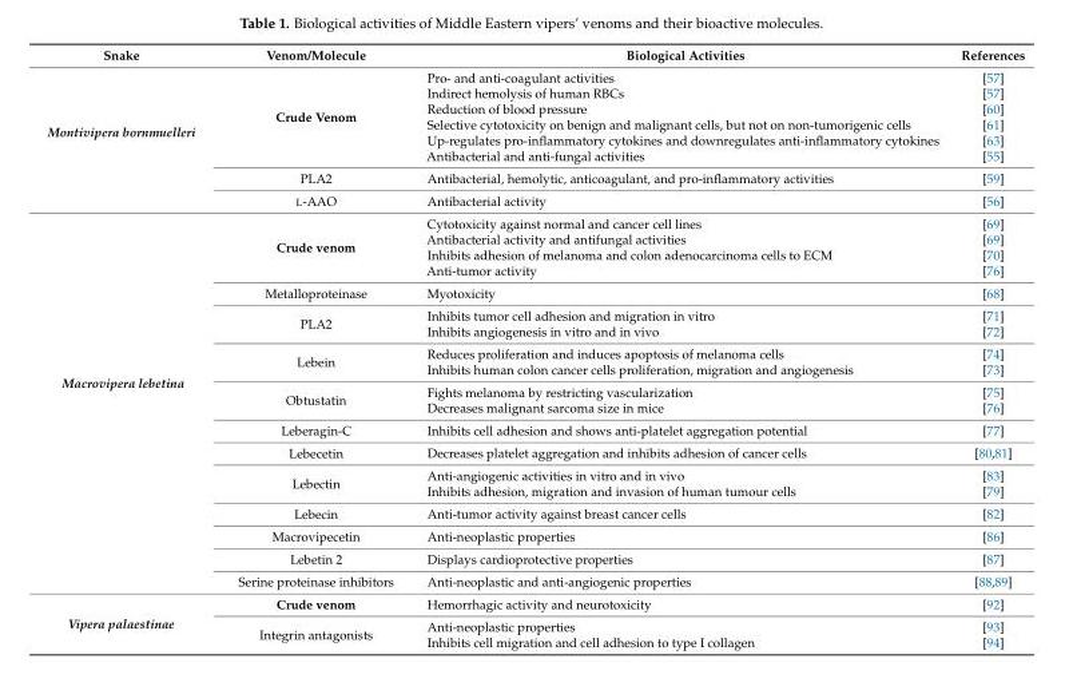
<table><thead><tr><td>Snake</td><td>Venom/Molecule</td><td>Biological Activities</td><td>References</td></tr></thead><tbody><tr><td rowspan="3">Montivipera bornmuelleri</td><td>Crude Venom</td><td>Pro- and anti-coagulant activities Indirect hemolysis of human RBCs Reduction of blood pressure Selective cytotoxicity on benign and malignant cells, but not on non-tumorigenic cells Up-regulates pro-inflammatory cytokines and downregulates anti-inflammatory cytokines Antibacterial and anti-fungal activities</td><td>[57] [57] [60] [61] [63] [55]</td></tr><tr><td>PLA2</td><td>Antibacterial, hemolytic, anticoagulant, and pro-inflammatory activities</td><td>[59]</td></tr><tr><td>L-AAO</td><td>Antibacterial activity</td><td>[56]</td></tr><tr><td rowspan="12">Macrovipera lebetina</td><td>Crude venom</td><td>Cytotoxicity against normal and cancer cell lines Antibacterial activity and antifungal activities Inhibits adhesion of melanoma and colon adenocarcinoma cells to ECM Anti-tumor activity</td><td>[69] [69] [70] [76]</td></tr><tr><td>Metalloproteinase</td><td>Myotoxicity</td><td>[68]</td></tr><tr><td>PLA2</td><td>Inhibits tumor cell adhesion and migration in vitro Inhibits angiogenesis in vitro and in vivo</td><td>[71] [72]</td></tr><tr><td>Lebein</td><td>Reduces proliferation and induces apoptosis of melanoma cells Inhibits human colon cancer cells proliferation, migration and angiogenesis</td><td>[74] [73]</td></tr><tr><td>Obtustatin</td><td>Fights melanoma by restricting vascularization Decreases malignant sarcoma size in mice</td><td>[75] [76]</td></tr><tr><td>Leberagin-C</td><td>Inhibits cell adhesion and shows anti-platelet aggregation potential</td><td>[77]</td></tr><tr><td>Lebecetin</td><td>Decreases platelet aggregation and inhibits adhesion of cancer cells</td><td>[80,81]</td></tr><tr><td>Lebectin</td><td>Anti-angiogenic activities in vitro and in vivo Inhibits adhesion, migration and invasion of human tumour cells</td><td>[83] [79]</td></tr><tr><td>Lebecin</td><td>Anti-tumor activity against breast cancer cells</td><td>[82]</td></tr><tr><td>Macrovipecetin</td><td>Anti-neoplastic properties</td><td>[86]</td></tr><tr><td>Lebetin 2</td><td>Displays cardioprotective properties</td><td>[87]</td></tr><tr><td>Serine proteinase inhibitors</td><td>Anti-neoplastic and anti-angiogenic properties</td><td>[88,89]</td></tr><tr><td rowspan="2">Vipera palaestinae</td><td>Crude venom</td><td>Hemorrhagic activity and neurotoxicity</td><td>[92]</td></tr><tr><td>Integrin antagonists</td><td>Anti-neoplastic properties Inhibits cell migration and cell adhesion to type I collagen</td><td>[93] [94]</td></tr></tbody></table>